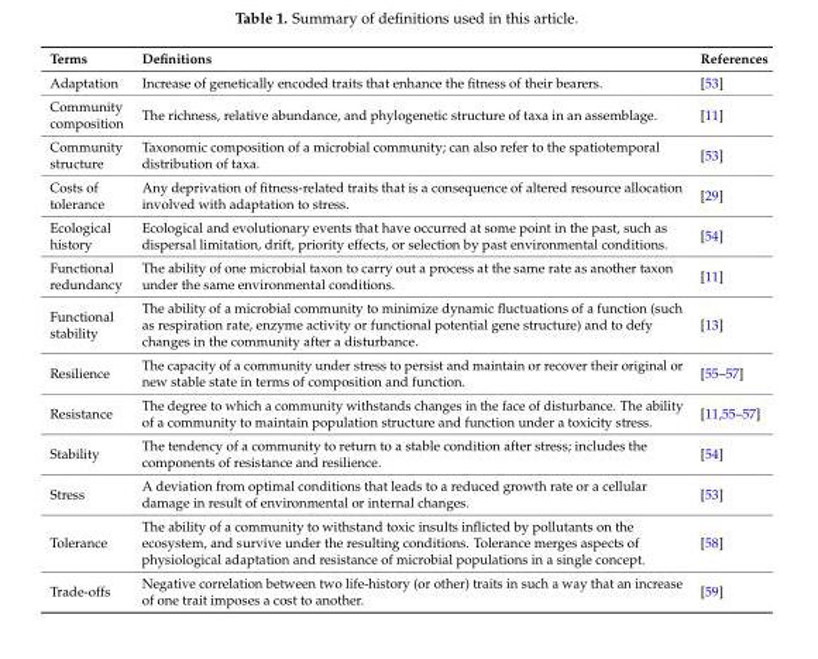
<table><thead><tr><td>Terms</td><td>Definitions</td><td>References</td></tr></thead><tbody><tr><td>Adaptation</td><td>Increase of genetically encoded traits that enhance the fitness of their bearers.</td><td>[53]</td></tr><tr><td>Community composition</td><td>The richness, relative abundance, and phylogenetic structure of taxa in an assemblage.</td><td>[11]</td></tr><tr><td>Community structure</td><td>Taxonomic composition of a microbial community; can also refer to the spatiotemporal distribution of taxa.</td><td>[53]</td></tr><tr><td>Costs of tolerance</td><td>Any deprivation of fitness-related traits that is a consequence of altered resource allocation involved with adaptation to stress.</td><td>[29]</td></tr><tr><td>Ecological history</td><td>Ecological and evolutionary events that have occurred at some point in the past, such as dispersal limitation, drift, priority effects, or selection by past environmental conditions.</td><td>[54]</td></tr><tr><td>Functional redundancy</td><td>The ability of one microbial taxon to carry out a process at the same rate as another taxon under the same environmental conditions.</td><td>[11]</td></tr><tr><td>Functional stability</td><td>The ability of a microbial community to minimize dynamic fluctuations of a function (such as respiration rate, enzyme activity or functional potential gene structure) and to defy changes in the community after a disturbance.</td><td>[13]</td></tr><tr><td>Resilience</td><td>The capacity of a community under stress to persist and maintain or recover their original or new stable state in terms of composition and function.</td><td>[55–57]</td></tr><tr><td>Resistance</td><td>The degree to which a community withstands changes in the face of disturbance. The ability of a community to maintain population structure and function under a toxicity stress.</td><td>[11,55–57]</td></tr><tr><td>Stability</td><td>The tendency of a community to return to a stable condition after stress; includes the components of resistance and resilience.</td><td>[54]</td></tr><tr><td>Stress</td><td>A deviation from optimal conditions that leads to a reduced growth rate or a cellular damage in result of environmental or internal changes.</td><td>[53]</td></tr><tr><td>Tolerance</td><td>The ability of a community to withstand toxic insults inflicted by pollutants on the ecosystem, and survive under the resulting conditions. Tolerance merges aspects of physiological adaptation and resistance of microbial populations in a single concept.</td><td>[58]</td></tr><tr><td>Trade-offs</td><td>Negative correlation between two life-history (or other) traits in such a way that an increase of one trait imposes a cost to another.</td><td>[59]</td></tr></tbody></table>